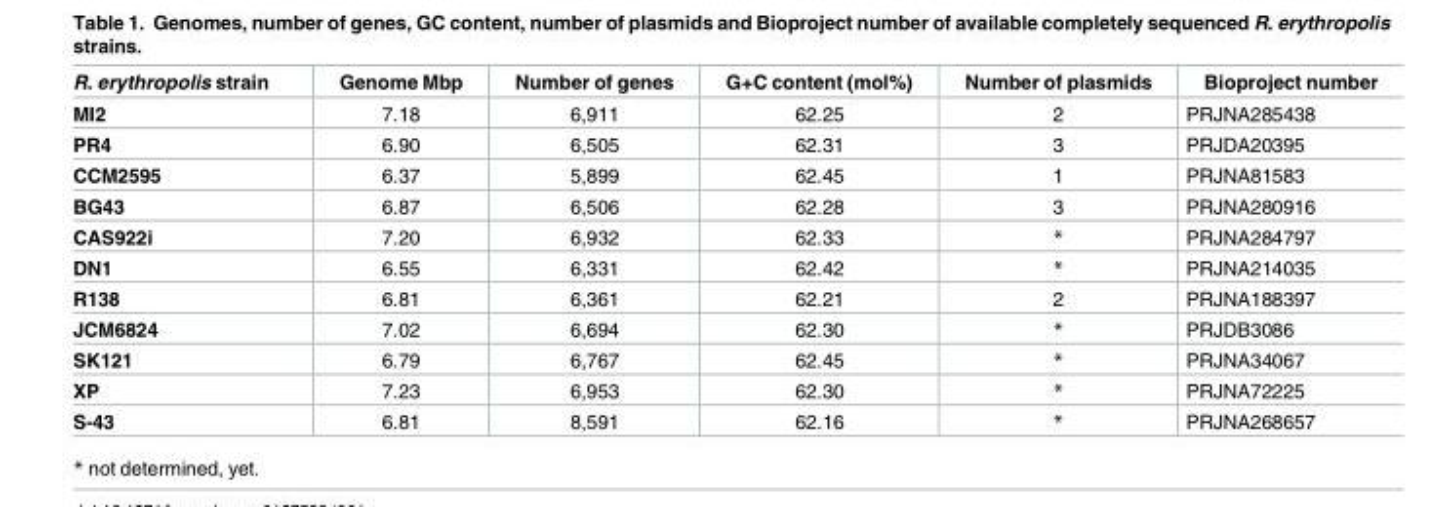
<table><thead><tr><td>R. erythropolis strain</td><td>Genome Mbp</td><td>Number of genes</td><td>G+C content (mol%)</td><td>Number of plasmids</td><td>Bioproject number</td></tr></thead><tbody><tr><td>MI2</td><td>7.18</td><td>6,911</td><td>62.25</td><td>2</td><td>PRJNA285438</td></tr><tr><td>PR4</td><td>6.90</td><td>6,505</td><td>62.31</td><td>3</td><td>PRJDA20395</td></tr><tr><td>CCM2595</td><td>6.37</td><td>5,899</td><td>62.45</td><td>1</td><td>PRJNA81583</td></tr><tr><td>BG43</td><td>6.87</td><td>6,506</td><td>62.28</td><td>3</td><td>PRJNA280916</td></tr><tr><td>CAS922i</td><td>7.20</td><td>6,932</td><td>62.33</td><td>*</td><td>PRJNA284797</td></tr><tr><td>DN1</td><td>6.55</td><td>6,331</td><td>62.42</td><td>*</td><td>PRJNA214035</td></tr><tr><td>R138</td><td>6.81</td><td>6,361</td><td>62.21</td><td>2</td><td>PRJNA188397</td></tr><tr><td>JCM6824</td><td>7.02</td><td>6,694</td><td>62.30</td><td>*</td><td>PRJDB3086</td></tr><tr><td>SK121</td><td>6.79</td><td>6,767</td><td>62.45</td><td>*</td><td>PRJNA34067</td></tr><tr><td>XP</td><td>7.23</td><td>6,953</td><td>62.30</td><td>*</td><td>PRJNA72225</td></tr><tr><td>S-43</td><td>6.81</td><td>8,591</td><td>62.16</td><td>*</td><td>PRJNA268657</td></tr></tbody></table>